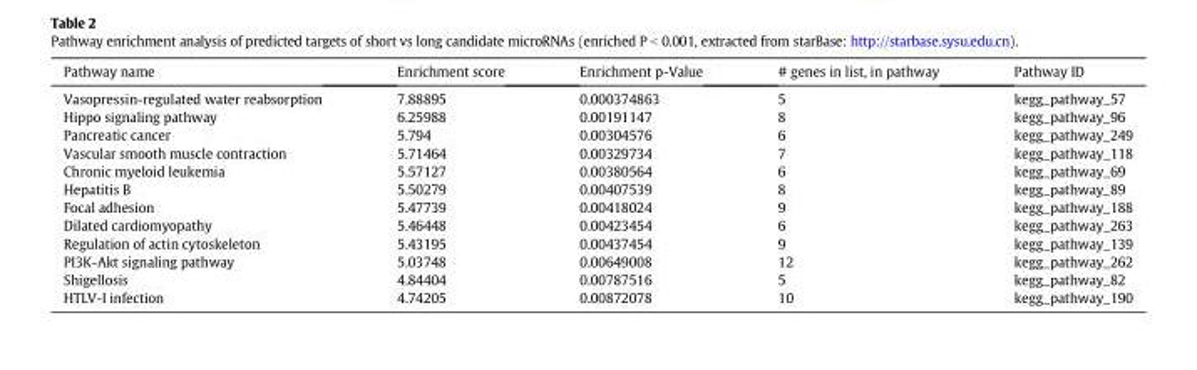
<table><thead><tr><td>Pathway name</td><td>Enrichment score</td><td>Enrichment p-Value</td><td># genes in list, in pathway</td><td>Pathway ID</td></tr></thead><tbody><tr><td>Vasopressin-regulated water reabsorption</td><td>7.88895</td><td>0.000374863</td><td>5</td><td>kegg_pathway_57</td></tr><tr><td>Hippo signaling pathway</td><td>6.25988</td><td>0.00191147</td><td>8</td><td>kegg_pathway_96</td></tr><tr><td>Pancreatic cancer</td><td>5.794</td><td>0.00304576</td><td>6</td><td>kegg_pathway_249</td></tr><tr><td>Vascular smooth muscle contraction</td><td>5.71464</td><td>0.00329734</td><td>7</td><td>kegg_pathway_118</td></tr><tr><td>Chronic myeloid leukemia</td><td>5.57127</td><td>0.00380564</td><td>6</td><td>kegg_pathway_69</td></tr><tr><td>Hepatitis B</td><td>5.50279</td><td>0.00407539</td><td>8</td><td>kegg_pathway_89</td></tr><tr><td>Focal adhesion</td><td>5.47739</td><td>0.00418024</td><td>9</td><td>kegg_pathway_188</td></tr><tr><td>Dilated cardiomyopathy</td><td>5.46448</td><td>0.00423454</td><td>6</td><td>kegg_pathway_263</td></tr><tr><td>Regulation of actin cytoskeleton</td><td>5.43195</td><td>0.00437454</td><td>9</td><td>kegg_pathway_139</td></tr><tr><td>PI3K-Akt signaling pathway</td><td>5.03748</td><td>0.00649008</td><td>12</td><td>kegg_pathway_262</td></tr><tr><td>Shigellosis</td><td>4.84404</td><td>0.00787516</td><td>5</td><td>kegg_pathway_82</td></tr><tr><td>HTLV-I infection</td><td>4.74205</td><td>0.00872078</td><td>10</td><td>kegg_pathway_190</td></tr></tbody></table>